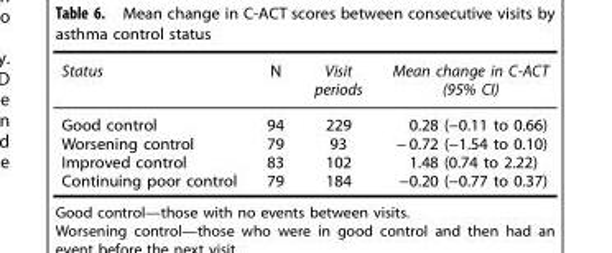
<table><thead><tr><td>Status</td><td>N</td><td>Visit periods</td><td>Mean change in C-ACT (95% CI)</td></tr></thead><tbody><tr><td>Good control</td><td>94</td><td>229</td><td>0.28 (−0.11 to 0.66)</td></tr><tr><td>Worsening control</td><td>79</td><td>93</td><td>− 0.72 (−1.54 to 0.10)</td></tr><tr><td>Improved control</td><td>83</td><td>102</td><td>1.48 (0.74 to 2.22)</td></tr><tr><td>Continuing poor control</td><td>79</td><td>184</td><td>−0.20 (−0.77 to 0.37)</td></tr></tbody></table>